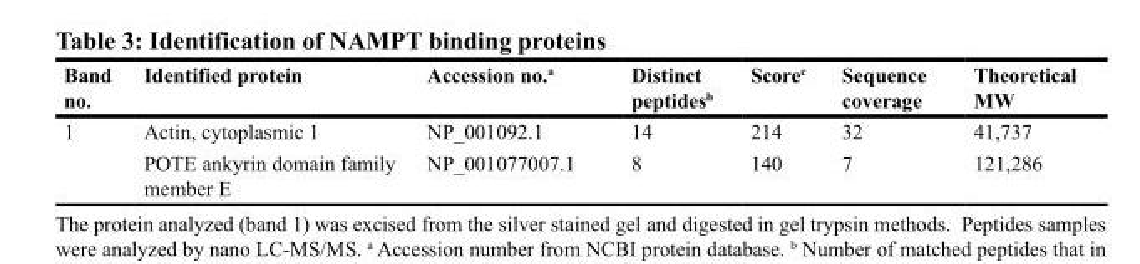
<table><thead><tr><td>Band no.</td><td>Identified protein</td><td>Accession no.<sup>a</sup></td><td>Distinct peptides<sup>b</sup></td><td>Score<sup>c</sup></td><td>Sequence coverage</td><td>Theoretical MW</td></tr></thead><tbody><tr><td rowspan="2">1</td><td>Actin, cytoplasmic 1</td><td>NP_001092.1</td><td>14</td><td>214</td><td>32</td><td>41,737</td></tr><tr><td>POTE ankyrin domain family member E</td><td>NP_001077007.1</td><td>8</td><td>140</td><td>7</td><td>121,286</td></tr></tbody></table>